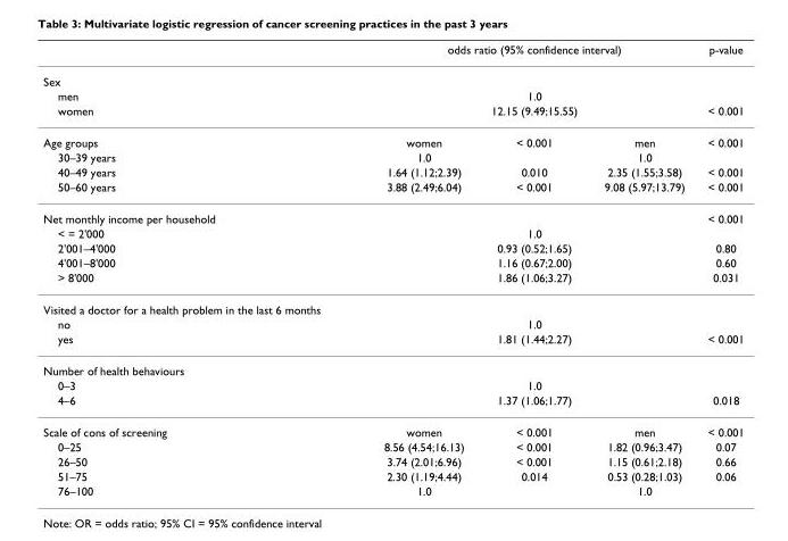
<table><thead><tr><td rowspan="2">Sex</td><td colspan="3">odds ratio (95% confidence interval)</td><td rowspan="2">p-value</td></tr><tr><td></td><td></td><td></td></tr></thead><tbody><tr><td>men</td><td></td><td>1.0</td><td></td><td></td></tr><tr><td>women</td><td></td><td>12.15 (9.49;15.55)</td><td></td><td>&lt; 0.001</td></tr><tr><td>Age groups</td><td>women</td><td>&lt; 0.001</td><td>men</td><td>&lt; 0.001</td></tr><tr><td>30–39 years</td><td>1.0</td><td></td><td>1.0</td><td></td></tr><tr><td>40–49 years</td><td>1.64 (1.12;2.39)</td><td>0.010</td><td>2.35 (1.55;3.58)</td><td>&lt; 0.001</td></tr><tr><td>50–60 years</td><td>3.88 (2.49;6.04)</td><td>&lt; 0.001</td><td>9.08 (5.97;13.79)</td><td>&lt; 0.001</td></tr><tr><td>Net monthly income per household</td><td></td><td></td><td></td><td>&lt; 0.001</td></tr><tr><td>&lt; = 2&#x27;000</td><td></td><td>1.0</td><td></td><td></td></tr><tr><td>2&#x27;001–4&#x27;000</td><td></td><td>0.93 (0.52;1.65)</td><td></td><td>0.80</td></tr><tr><td>4&#x27;001–8&#x27;000</td><td></td><td>1.16 (0.67;2.00)</td><td></td><td>0.60</td></tr><tr><td>&gt; 8&#x27;000</td><td></td><td>1.86 (1.06;3.27)</td><td></td><td>0.031</td></tr><tr><td colspan="5">Visited a doctor for a health problem in the last 6 months</td></tr><tr><td>no</td><td></td><td>1.0</td><td></td><td></td></tr><tr><td>yes</td><td></td><td>1.81 (1.44;2.27)</td><td></td><td>&lt; 0.001</td></tr><tr><td colspan="5">Number of health behaviours</td></tr><tr><td>0–3</td><td></td><td>1.0</td><td></td><td></td></tr><tr><td>4–6</td><td></td><td>1.37 (1.06;1.77)</td><td></td><td>0.018</td></tr><tr><td>Scale of cons of screening</td><td>women</td><td>&lt; 0.001</td><td>men</td><td>&lt; 0.001</td></tr><tr><td>0–25</td><td>8.56 (4.54;16.13)</td><td>&lt; 0.001</td><td>1.82 (0.96;3.47)</td><td>0.07</td></tr><tr><td>26–50</td><td>3.74 (2.01;6.96)</td><td>&lt; 0.001</td><td>1.15 (0.61;2.18)</td><td>0.66</td></tr><tr><td>51–75</td><td>2.30 (1.19;4.44)</td><td>0.014</td><td>0.53 (0.28;1.03)</td><td>0.06</td></tr><tr><td>76–100</td><td>1.0</td><td></td><td>1.0</td><td></td></tr></tbody></table>